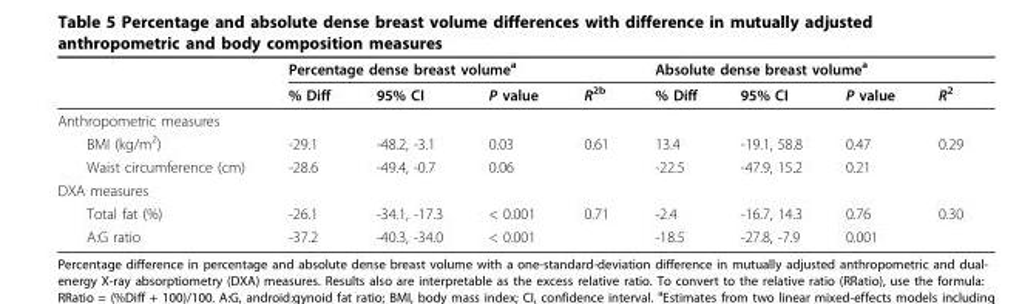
<table><thead><tr><td rowspan="2"></td><td colspan="4">Percentage dense breast volume<sup>a</sup></td><td colspan="4">Absolute dense breast volume<sup>a</sup></td></tr><tr><td>% Diff</td><td>95% CI</td><td>P value</td><td>R<sup>2b</sup></td><td>% Diff</td><td>95% CI</td><td>P value</td><td>R<sup>2</sup></td></tr></thead><tbody><tr><td colspan="9">Anthropometric measures</td></tr><tr><td>BMI (kg/m<sup>2</sup>)</td><td>-29.1</td><td>-48.2, -3.1</td><td>0.03</td><td>0.61</td><td>13.4</td><td>-19.1, 58.8</td><td>0.47</td><td>0.29</td></tr><tr><td>Waist circumference (cm)</td><td>-28.6</td><td>-49.4, -0.7</td><td>0.06</td><td></td><td>-22.5</td><td>-47.9, 15.2</td><td>0.21</td><td></td></tr><tr><td colspan="9">DXA measures</td></tr><tr><td>Total fat (%)</td><td>-26.1</td><td>-34.1, -17.3</td><td>&lt; 0.001</td><td>0.71</td><td>-2.4</td><td>-16.7, 14.3</td><td>0.76</td><td>0.30</td></tr><tr><td>A:G ratio</td><td>-37.2</td><td>-40.3, -34.0</td><td>&lt; 0.001</td><td></td><td>-18.5</td><td>-27.8, -7.9</td><td>0.001</td><td></td></tr></tbody></table>